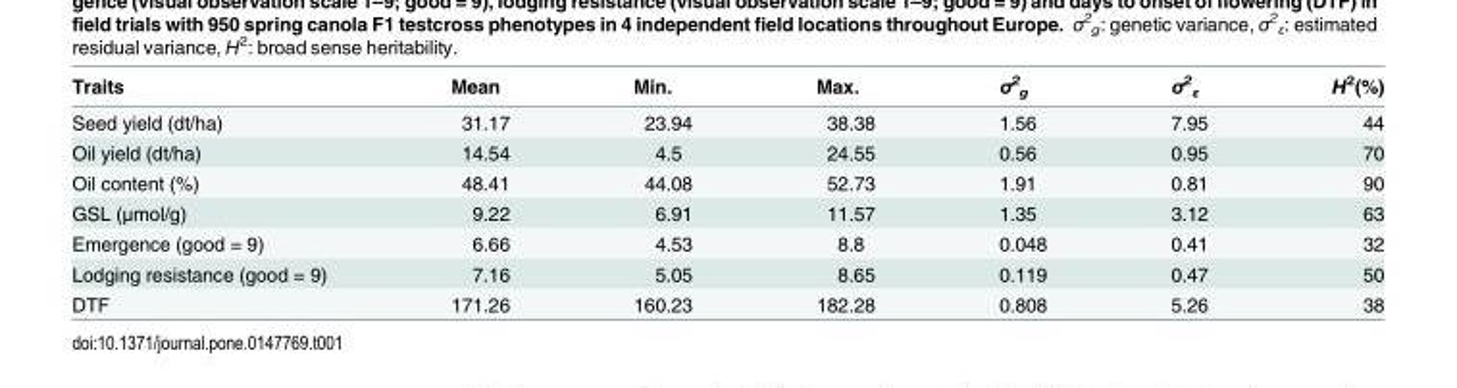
<table><thead><tr><td>Traits</td><td>Mean</td><td>Min.</td><td>Max.</td><td>σ<sup>2</sup> <sub>g</sub></td><td>σ<sup>2</sup> <sub>ε</sub></td><td>H<sup>2</sup>(%)</td></tr></thead><tbody><tr><td>Seed yield (dt/ha)</td><td>31.17</td><td>23.94</td><td>38.38</td><td>1.56</td><td>7.95</td><td>44</td></tr><tr><td>Oil yield (dt/ha)</td><td>14.54</td><td>4.5</td><td>24.55</td><td>0.56</td><td>0.95</td><td>70</td></tr><tr><td>Oil content (%)</td><td>48.41</td><td>44.08</td><td>52.73</td><td>1.91</td><td>0.81</td><td>90</td></tr><tr><td>GSL (μmol/g)</td><td>9.22</td><td>6.91</td><td>11.57</td><td>1.35</td><td>3.12</td><td>63</td></tr><tr><td>Emergence (good = 9)</td><td>6.66</td><td>4.53</td><td>8.8</td><td>0.048</td><td>0.41</td><td>32</td></tr><tr><td>Lodging resistance (good = 9)</td><td>7.16</td><td>5.05</td><td>8.65</td><td>0.119</td><td>0.47</td><td>50</td></tr><tr><td>DTF</td><td>171.26</td><td>160.23</td><td>182.28</td><td>0.808</td><td>5.26</td><td>38</td></tr></tbody></table>